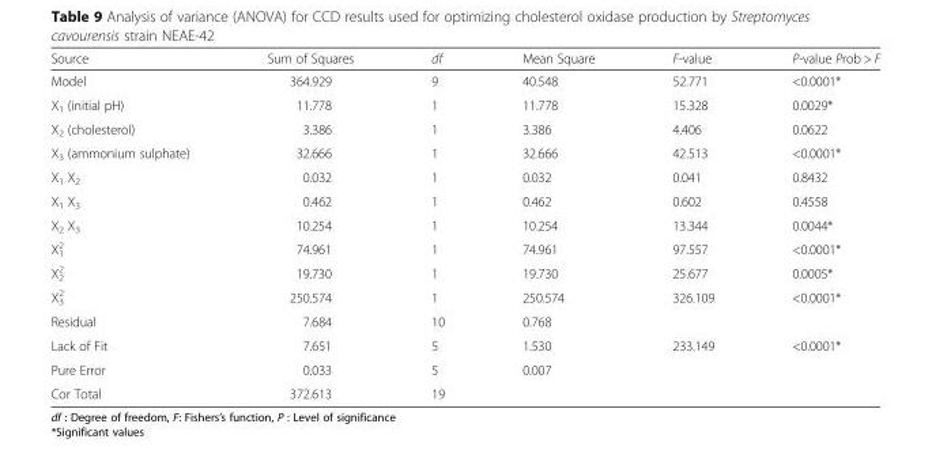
<table><thead><tr><td>Source</td><td>Sum of Squares</td><td>df</td><td>Mean Square</td><td>F-value</td><td>P-value Prob &gt; F</td></tr></thead><tbody><tr><td>Model</td><td>364.929</td><td>9</td><td>40.548</td><td>52.771</td><td>&lt;0.0001*</td></tr><tr><td>X<sub>1</sub> (initial pH)</td><td>11.778</td><td>1</td><td>11.778</td><td>15.328</td><td>0.0029*</td></tr><tr><td>X<sub>2</sub> (cholesterol)</td><td>3.386</td><td>1</td><td>3.386</td><td>4.406</td><td>0.0622</td></tr><tr><td>X<sub>3</sub> (ammonium sulphate)</td><td>32.666</td><td>1</td><td>32.666</td><td>42.513</td><td>&lt;0.0001*</td></tr><tr><td>X<sub>1</sub> X<sub>2</sub></td><td>0.032</td><td>1</td><td>0.032</td><td>0.041</td><td>0.8432</td></tr><tr><td>X<sub>1</sub> X<sub>3</sub></td><td>0.462</td><td>1</td><td>0.462</td><td>0.602</td><td>0.4558</td></tr><tr><td>X<sub>2</sub> X<sub>3</sub></td><td>10.254</td><td>1</td><td>10.254</td><td>13.344</td><td>0.0044*</td></tr><tr><td>X<sub>1</sub> <sup>2</sup></td><td>74.961</td><td>1</td><td>74.961</td><td>97.557</td><td>&lt;0.0001*</td></tr><tr><td>X<sub>2</sub> <sup>2</sup></td><td>19.730</td><td>1</td><td>19.730</td><td>25.677</td><td>0.0005*</td></tr><tr><td>X<sub>3</sub> <sup>2</sup></td><td>250.574</td><td>1</td><td>250.574</td><td>326.109</td><td>&lt;0.0001*</td></tr><tr><td>Residual</td><td>7.684</td><td>10</td><td>0.768</td><td></td><td></td></tr><tr><td>Lack of Fit</td><td>7.651</td><td>5</td><td>1.530</td><td>233.149</td><td>&lt;0.0001*</td></tr><tr><td>Pure Error</td><td>0.033</td><td>5</td><td>0.007</td><td></td><td></td></tr><tr><td>Cor Total</td><td>372.613</td><td>19</td><td></td><td></td><td></td></tr></tbody></table>